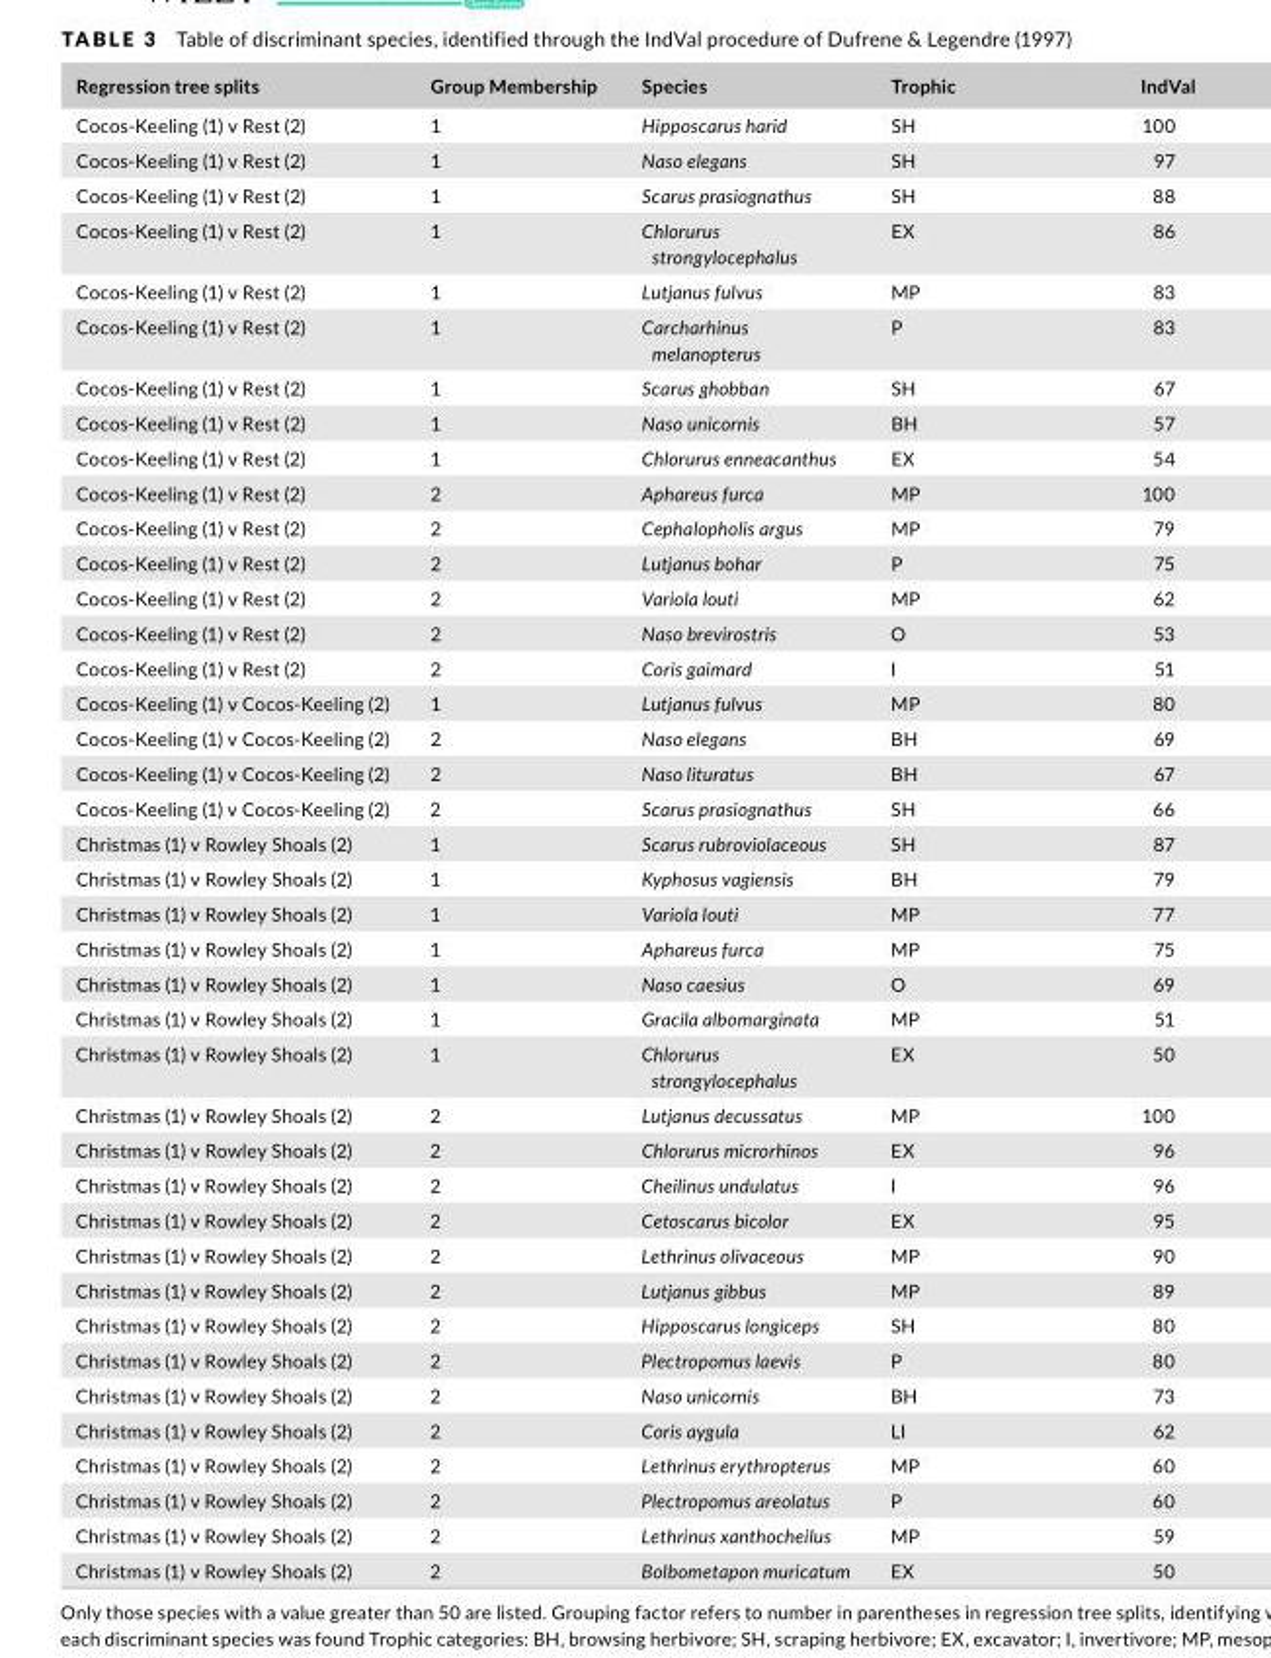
<table><thead><tr><td>Regression tree splits</td><td>Group Membership</td><td>Species</td><td>Trophic</td><td>IndVal</td></tr></thead><tbody><tr><td>Cocos- Keeling (1) v Rest (2)</td><td>1</td><td>Hipposcarus harid</td><td>SH</td><td>100</td></tr><tr><td>Cocos- Keeling (1) v Rest (2)</td><td>1</td><td>Naso elegans</td><td>SH</td><td>97</td></tr><tr><td>Cocos- Keeling (1) v Rest (2)</td><td>1</td><td>Scarus prasiognathus</td><td>SH</td><td>88</td></tr><tr><td>Cocos- Keeling (1) v Rest (2)</td><td>1</td><td>Chlorurus strongylocephalus</td><td>EX</td><td>86</td></tr><tr><td>Cocos- Keeling (1) v Rest (2)</td><td>1</td><td>Lutjanus fulvus</td><td>MP</td><td>83</td></tr><tr><td>Cocos- Keeling (1) v Rest (2)</td><td>1</td><td>Carcharhinus melanopterus</td><td>P</td><td>83</td></tr><tr><td>Cocos- Keeling (1) v Rest (2)</td><td>1</td><td>Scarus ghobban</td><td>SH</td><td>67</td></tr><tr><td>Cocos- Keeling (1) v Rest (2)</td><td>1</td><td>Naso unicornis</td><td>BH</td><td>57</td></tr><tr><td>Cocos- Keeling (1) v Rest (2)</td><td>1</td><td>Chlorurus enneacanthus</td><td>EX</td><td>54</td></tr><tr><td>Cocos- Keeling (1) v Rest (2)</td><td>2</td><td>Aphareus furca</td><td>MP</td><td>100</td></tr><tr><td>Cocos- Keeling (1) v Rest (2)</td><td>2</td><td>Cephalopholis argus</td><td>MP</td><td>79</td></tr><tr><td>Cocos- Keeling (1) v Rest (2)</td><td>2</td><td>Lutjanus bohar</td><td>P</td><td>75</td></tr><tr><td>Cocos- Keeling (1) v Rest (2)</td><td>2</td><td>Variola louti</td><td>MP</td><td>62</td></tr><tr><td>Cocos- Keeling (1) v Rest (2)</td><td>2</td><td>Naso brevirostris</td><td>O</td><td>53</td></tr><tr><td>Cocos- Keeling (1) v Rest (2)</td><td>2</td><td>Coris gaimard</td><td>I</td><td>51</td></tr><tr><td>Cocos- Keeling (1) v Cocos- Keeling (2)</td><td>1</td><td>Lutjanus fulvus</td><td>MP</td><td>80</td></tr><tr><td>Cocos- Keeling (1) v Cocos- Keeling (2)</td><td>2</td><td>Naso elegans</td><td>BH</td><td>69</td></tr><tr><td>Cocos- Keeling (1) v Cocos- Keeling (2)</td><td>2</td><td>Naso lituratus</td><td>BH</td><td>67</td></tr><tr><td>Cocos- Keeling (1) v Cocos- Keeling (2)</td><td>2</td><td>Scarus prasiognathus</td><td>SH</td><td>66</td></tr><tr><td>Christmas (1) v Rowley Shoals (2)</td><td>1</td><td>Scarus rubroviolaceous</td><td>SH</td><td>87</td></tr><tr><td>Christmas (1) v Rowley Shoals (2)</td><td>1</td><td>Kyphosus vagiensis</td><td>BH</td><td>79</td></tr><tr><td>Christmas (1) v Rowley Shoals (2)</td><td>1</td><td>Variola louti</td><td>MP</td><td>77</td></tr><tr><td>Christmas (1) v Rowley Shoals (2)</td><td>1</td><td>Aphareus furca</td><td>MP</td><td>75</td></tr><tr><td>Christmas (1) v Rowley Shoals (2)</td><td>1</td><td>Naso caesius</td><td>O</td><td>69</td></tr><tr><td>Christmas (1) v Rowley Shoals (2)</td><td>1</td><td>Gracila albomarginata</td><td>MP</td><td>51</td></tr><tr><td>Christmas (1) v Rowley Shoals (2)</td><td>1</td><td>Chlorurus strongylocephalus</td><td>EX</td><td>50</td></tr><tr><td>Christmas (1) v Rowley Shoals (2)</td><td>2</td><td>Lutjanus decussatus</td><td>MP</td><td>100</td></tr><tr><td>Christmas (1) v Rowley Shoals (2)</td><td>2</td><td>Chlorurus microrhinos</td><td>EX</td><td>96</td></tr><tr><td>Christmas (1) v Rowley Shoals (2)</td><td>2</td><td>Cheilinus undulatus</td><td>I</td><td>96</td></tr><tr><td>Christmas (1) v Rowley Shoals (2)</td><td>2</td><td>Cetoscarus bicolor</td><td>EX</td><td>95</td></tr><tr><td>Christmas (1) v Rowley Shoals (2)</td><td>2</td><td>Lethrinus olivaceous</td><td>MP</td><td>90</td></tr><tr><td>Christmas (1) v Rowley Shoals (2)</td><td>2</td><td>Lutjanus gibbus</td><td>MP</td><td>89</td></tr><tr><td>Christmas (1) v Rowley Shoals (2)</td><td>2</td><td>Hipposcarus longiceps</td><td>SH</td><td>80</td></tr><tr><td>Christmas (1) v Rowley Shoals (2)</td><td>2</td><td>Plectropomus laevis</td><td>P</td><td>80</td></tr><tr><td>Christmas (1) v Rowley Shoals (2)</td><td>2</td><td>Naso unicornis</td><td>BH</td><td>73</td></tr><tr><td>Christmas (1) v Rowley Shoals (2)</td><td>2</td><td>Coris aygula</td><td>LI</td><td>62</td></tr><tr><td>Christmas (1) v Rowley Shoals (2)</td><td>2</td><td>Lethrinus erythropterus</td><td>MP</td><td>60</td></tr><tr><td>Christmas (1) v Rowley Shoals (2)</td><td>2</td><td>Plectropomus areolatus</td><td>P</td><td>60</td></tr><tr><td>Christmas (1) v Rowley Shoals (2)</td><td>2</td><td>Lethrinus xanthocheilus</td><td>MP</td><td>59</td></tr><tr><td>Christmas (1) v Rowley Shoals (2)</td><td>2</td><td>Bolbometapon muricatum</td><td>EX</td><td>50</td></tr></tbody></table>